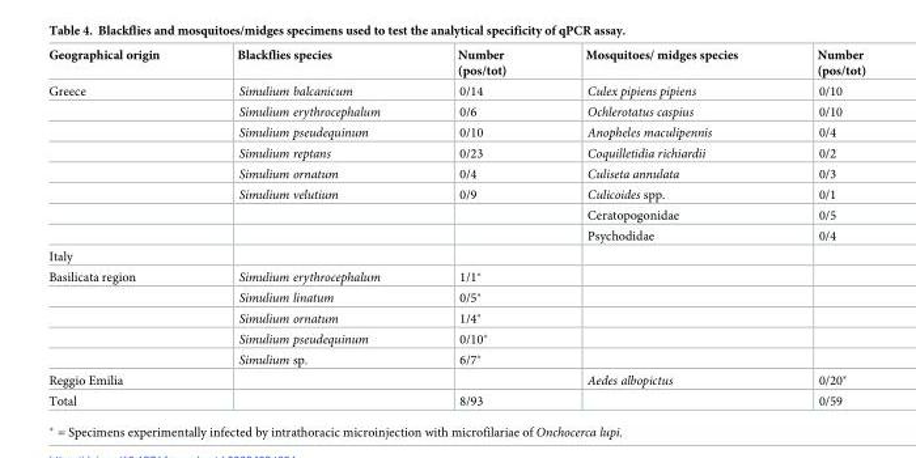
<table><thead><tr><td>Geographical origin</td><td>Blackflies species</td><td>Number (pos/tot)</td><td>Mosquitoes/ midges species</td><td>Number (pos/tot)</td></tr></thead><tbody><tr><td rowspan="8">Greece</td><td>Simulium balcanicum</td><td>0/14</td><td>Culex pipiens pipiens</td><td>0/10</td></tr><tr><td>Simulium erythrocephalum</td><td>0/6</td><td>Ochlerotatus caspius</td><td>0/10</td></tr><tr><td>Simulium pseudequinum</td><td>0/10</td><td>Anopheles maculipennis</td><td>0/4</td></tr><tr><td>Simulium reptans</td><td>0/23</td><td>Coquilletidia richiardii</td><td>0/2</td></tr><tr><td>Simulium ornatum</td><td>0/4</td><td>Culiseta annulata</td><td>0/3</td></tr><tr><td>Simulium velutium</td><td>0/9</td><td>Culicoides spp.</td><td>0/1</td></tr><tr><td></td><td></td><td>Ceratopogonidae</td><td>0/5</td></tr><tr><td></td><td></td><td>Psychodidae</td><td>0/4</td></tr><tr><td colspan="5">Italy</td></tr><tr><td rowspan="5">Basilicata region</td><td>Simulium erythrocephalum</td><td>1/1*</td><td></td><td></td></tr><tr><td>Simulium linatum</td><td>0/5*</td><td></td><td></td></tr><tr><td>Simulium ornatum</td><td>1/4*</td><td></td><td></td></tr><tr><td>Simulium pseudequinum</td><td>0/10*</td><td></td><td></td></tr><tr><td>Simulium sp.</td><td>6/7*</td><td></td><td></td></tr><tr><td>Reggio Emilia</td><td></td><td></td><td>Aedes albopictus</td><td>0/20*</td></tr><tr><td>Total</td><td></td><td>8/93</td><td></td><td>0/59</td></tr></tbody></table>